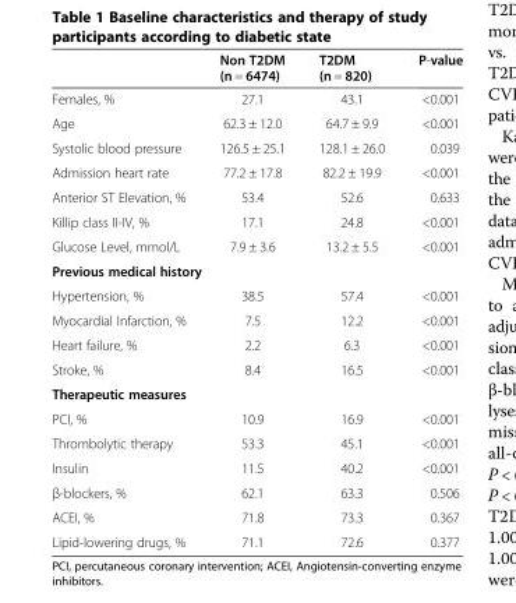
<table><thead><tr><td></td><td>Non T2DM (n = 6474)</td><td>T2DM (n = 820)</td><td>P-value</td></tr></thead><tbody><tr><td>Females, %</td><td>27.1</td><td>43.1</td><td>&lt;0.001</td></tr><tr><td>Age</td><td>62.3 ± 12.0</td><td>64.7 ± 9.9</td><td>&lt;0.001</td></tr><tr><td>Systolic blood pressure</td><td>126.5 ± 25.1</td><td>128.1 ± 26.0</td><td>0.039</td></tr><tr><td>Admission heart rate</td><td>77.2 ± 17.8</td><td>82.2 ± 19.9</td><td>&lt;0.001</td></tr><tr><td>Anterior ST Elevation, %</td><td>53.4</td><td>52.6</td><td>0.633</td></tr><tr><td>Killip class II-IV, %</td><td>17.1</td><td>24.8</td><td>&lt;0.001</td></tr><tr><td>Glucose Level, mmol/L</td><td>7.9 ± 3.6</td><td>13.2 ± 5.5</td><td>&lt;0.001</td></tr><tr><td colspan="4">Previous medical history</td></tr><tr><td>Hypertension, %</td><td>38.5</td><td>57.4</td><td>&lt;0.001</td></tr><tr><td>Myocardial Infarction, %</td><td>7.5</td><td>12.2</td><td>&lt;0.001</td></tr><tr><td>Heart failure, %</td><td>2.2</td><td>6.3</td><td>&lt;0.001</td></tr><tr><td>Stroke, %</td><td>8.4</td><td>16.5</td><td>&lt;0.001</td></tr><tr><td colspan="4">Therapeutic measures</td></tr><tr><td>PCI, %</td><td>10.9</td><td>16.9</td><td>&lt;0.001</td></tr><tr><td>Thrombolytic therapy</td><td>53.3</td><td>45.1</td><td>&lt;0.001</td></tr><tr><td>Insulin</td><td>11.5</td><td>40.2</td><td>&lt;0.001</td></tr><tr><td>β-blockers, %</td><td>62.1</td><td>63.3</td><td>0.506</td></tr><tr><td>ACEI, %</td><td>71.8</td><td>73.3</td><td>0.367</td></tr><tr><td>Lipid-lowering drugs, %</td><td>71.1</td><td>72.6</td><td>0.377</td></tr></tbody></table>